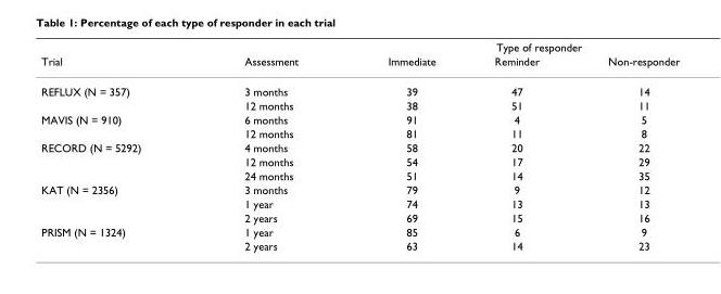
<table><thead><tr><td rowspan="2">Trial</td><td rowspan="2">Assessment</td><td colspan="3">Type of responder</td></tr><tr><td>Immediate</td><td>Reminder</td><td>Non-responder</td></tr></thead><tbody><tr><td rowspan="2">REFLUX (N = 357)</td><td>3 months</td><td>39</td><td>47</td><td>14</td></tr><tr><td>12 months</td><td>38</td><td>51</td><td>11</td></tr><tr><td rowspan="2">MAVIS (N = 910)</td><td>6 months</td><td>91</td><td>4</td><td>5</td></tr><tr><td>12 months</td><td>81</td><td>11</td><td>8</td></tr><tr><td rowspan="3">RECORD (N = 5292)</td><td>4 months</td><td>58</td><td>20</td><td>22</td></tr><tr><td>12 months</td><td>54</td><td>17</td><td>29</td></tr><tr><td>24 months</td><td>51</td><td>14</td><td>35</td></tr><tr><td rowspan="3">KAT (N = 2356)</td><td>3 months</td><td>79</td><td>9</td><td>12</td></tr><tr><td>1 year</td><td>74</td><td>13</td><td>13</td></tr><tr><td>2 years</td><td>69</td><td>15</td><td>16</td></tr><tr><td rowspan="2">PRISM (N = 1324)</td><td>1 year</td><td>85</td><td>6</td><td>9</td></tr><tr><td>2 years</td><td>63</td><td>14</td><td>23</td></tr></tbody></table>